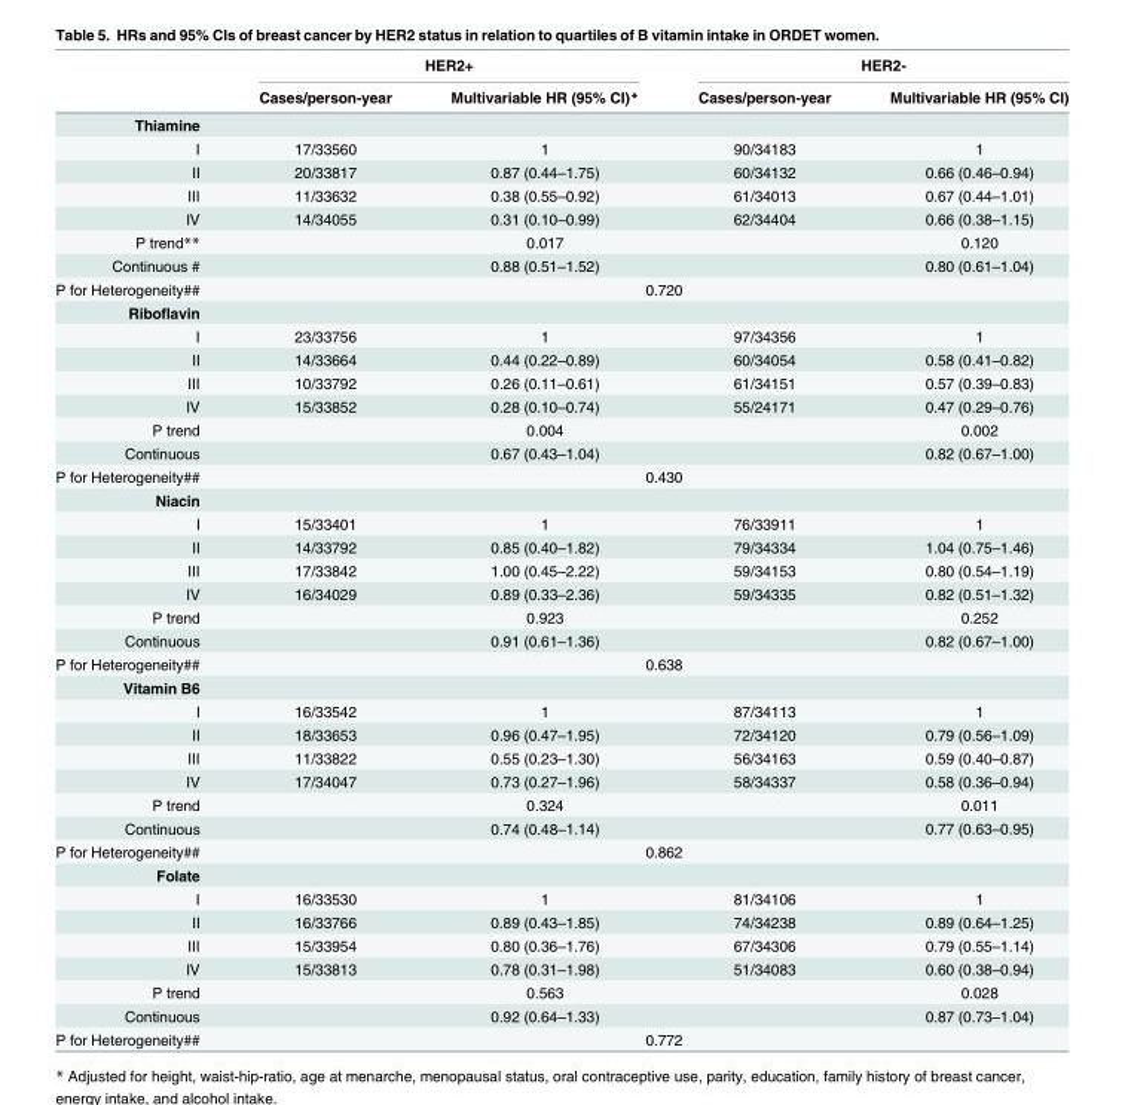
<table><thead><tr><td rowspan="2"></td><td colspan="2">HER2+</td><td colspan="2">HER2-</td></tr><tr><td>Cases/person-year</td><td>Multivariable HR (95% CI)*</td><td>Cases/person-year</td><td>Multivariable HR (95% CI)</td></tr></thead><tbody><tr><td colspan="5">Thiamine</td></tr><tr><td>I</td><td>17/33560</td><td>1</td><td>90/34183</td><td>1</td></tr><tr><td>II</td><td>20/33817</td><td>0.87 (0.44–1.75)</td><td>60/34132</td><td>0.66 (0.46–0.94)</td></tr><tr><td>III</td><td>11/33632</td><td>0.38 (0.55–0.92)</td><td>61/34013</td><td>0.67 (0.44–1.01)</td></tr><tr><td>IV</td><td>14/34055</td><td>0.31 (0.10–0.99)</td><td>62/34404</td><td>0.66 (0.38–1.15)</td></tr><tr><td>P trend**</td><td></td><td>0.017</td><td></td><td>0.120</td></tr><tr><td>Continuous #</td><td></td><td>0.88 (0.51–1.52)</td><td></td><td>0.80 (0.61–1.04)</td></tr><tr><td>P for Heterogeneity##</td><td colspan="4">0.720</td></tr><tr><td colspan="5">Riboflavin</td></tr><tr><td>I</td><td>23/33756</td><td>1</td><td>97/34356</td><td>1</td></tr><tr><td>II</td><td>14/33664</td><td>0.44 (0.22–0.89)</td><td>60/34054</td><td>0.58 (0.41–0.82)</td></tr><tr><td>III</td><td>10/33792</td><td>0.26 (0.11–0.61)</td><td>61/34151</td><td>0.57 (0.39–0.83)</td></tr><tr><td>IV</td><td>15/33852</td><td>0.28 (0.10–0.74)</td><td>55/24171</td><td>0.47 (0.29–0.76)</td></tr><tr><td>P trend</td><td></td><td>0.004</td><td></td><td>0.002</td></tr><tr><td>Continuous</td><td></td><td>0.67 (0.43–1.04)</td><td></td><td>0.82 (0.67–1.00)</td></tr><tr><td>P for Heterogeneity##</td><td colspan="4">0.430</td></tr><tr><td colspan="5">Niacin</td></tr><tr><td>I</td><td>15/33401</td><td>1</td><td>76/33911</td><td>1</td></tr><tr><td>II</td><td>14/33792</td><td>0.85 (0.40–1.82)</td><td>79/34334</td><td>1.04 (0.75–1.46)</td></tr><tr><td>III</td><td>17/33842</td><td>1.00 (0.45–2.22)</td><td>59/34153</td><td>0.80 (0.54–1.19)</td></tr><tr><td>IV</td><td>16/34029</td><td>0.89 (0.33–2.36)</td><td>59/34335</td><td>0.82 (0.51–1.32)</td></tr><tr><td>P trend</td><td></td><td>0.923</td><td></td><td>0.252</td></tr><tr><td>Continuous</td><td></td><td>0.91 (0.61–1.36)</td><td></td><td>0.82 (0.67–1.00)</td></tr><tr><td>P for Heterogeneity##</td><td colspan="4">0.638</td></tr><tr><td colspan="5">Vitamin B6</td></tr><tr><td>I</td><td>16/33542</td><td>1</td><td>87/34113</td><td>1</td></tr><tr><td>II</td><td>18/33653</td><td>0.96 (0.47–1.95)</td><td>72/34120</td><td>0.79 (0.56–1.09)</td></tr><tr><td>III</td><td>11/33822</td><td>0.55 (0.23–1.30)</td><td>56/34163</td><td>0.59 (0.40–0.87)</td></tr><tr><td>IV</td><td>17/34047</td><td>0.73 (0.27–1.96)</td><td>58/34337</td><td>0.58 (0.36–0.94)</td></tr><tr><td>P trend</td><td></td><td>0.324</td><td></td><td>0.011</td></tr><tr><td>Continuous</td><td></td><td>0.74 (0.48–1.14)</td><td></td><td>0.77 (0.63–0.95)</td></tr><tr><td>P for Heterogeneity##</td><td colspan="4">0.862</td></tr><tr><td colspan="5">Folate</td></tr><tr><td>I</td><td>16/33530</td><td>1</td><td>81/34106</td><td>1</td></tr><tr><td>II</td><td>16/33766</td><td>0.89 (0.43–1.85)</td><td>74/34238</td><td>0.89 (0.64–1.25)</td></tr><tr><td>III</td><td>15/33954</td><td>0.80 (0.36–1.76)</td><td>67/34306</td><td>0.79 (0.55–1.14)</td></tr><tr><td>IV</td><td>15/33813</td><td>0.78 (0.31–1.98)</td><td>51/34083</td><td>0.60 (0.38–0.94)</td></tr><tr><td>P trend</td><td></td><td>0.563</td><td></td><td>0.028</td></tr><tr><td>Continuous</td><td></td><td>0.92 (0.64–1.33)</td><td></td><td>0.87 (0.73–1.04)</td></tr><tr><td>P for Heterogeneity##</td><td colspan="4">0.772</td></tr></tbody></table>